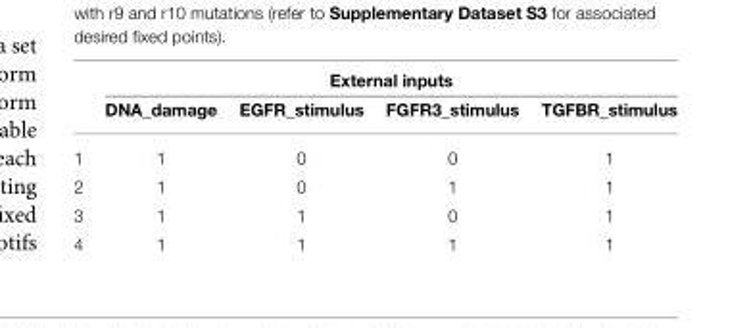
<table><thead><tr><td rowspan="2"></td><td colspan="4">External inputs</td></tr><tr><td>DNA_damage</td><td>EGFR_stimulus</td><td>FGFR3_stimulus</td><td>TGFBR_stimulus</td></tr></thead><tbody><tr><td>1</td><td>1</td><td>0</td><td>0</td><td>1</td></tr><tr><td>2</td><td>1</td><td>0</td><td>1</td><td>1</td></tr><tr><td>3</td><td>1</td><td>1</td><td>0</td><td>1</td></tr><tr><td>4</td><td>1</td><td>1</td><td>1</td><td>1</td></tr></tbody></table>